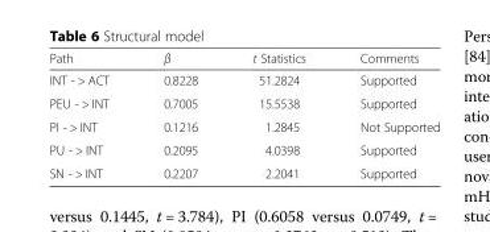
<table><thead><tr><td>Path</td><td>β</td><td>t Statistics</td><td>Comments</td></tr></thead><tbody><tr><td>INT - &gt; ACT</td><td>0.8228</td><td>51.2824</td><td>Supported</td></tr><tr><td>PEU - &gt; INT</td><td>0.7005</td><td>15.5538</td><td>Supported</td></tr><tr><td>PI - &gt; INT</td><td>0.1216</td><td>1.2845</td><td>Not Supported</td></tr><tr><td>PU - &gt; INT</td><td>0.2095</td><td>4.0398</td><td>Supported</td></tr><tr><td>SN - &gt; INT</td><td>0.2207</td><td>2.2041</td><td>Supported</td></tr></tbody></table>